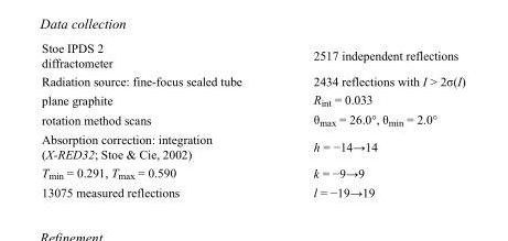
<table><tbody><tr><td>Stoe IPDS 2 diffractometer</td><td>2517 independent reflections</td></tr><tr><td>Radiation source: fine-focus sealed tube</td><td>2434 reflections with I &gt; 2σ(I)</td></tr><tr><td>plane graphite</td><td>R<sub>int</sub> = 0.033</td></tr><tr><td>rotation method scans</td><td>θ<sub>max</sub> = 26.0°, θ<sub>min</sub> = 2.0°</td></tr><tr><td>Absorption correction: integration (X-RED32; Stoe &amp; Cie, 2002)</td><td>h = −14→14</td></tr><tr><td>T<sub>min</sub> = 0.291, T<sub>max</sub> = 0.590</td><td>k = −9→9</td></tr><tr><td>13075 measured reflections</td><td>l = −19→19</td></tr></tbody></table>